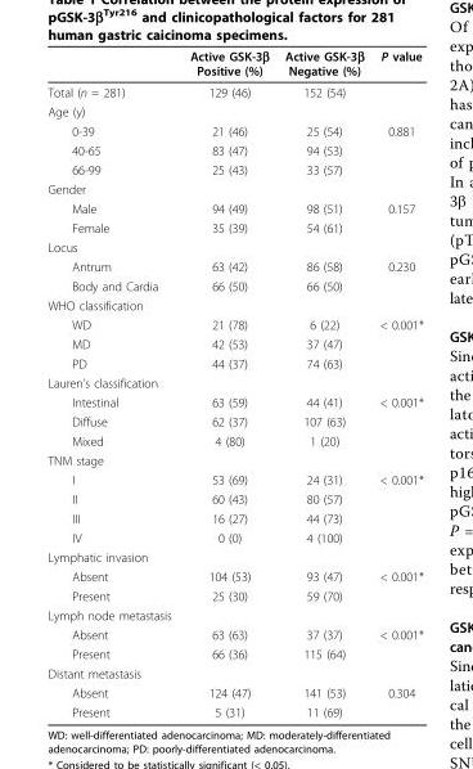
<table><thead><tr><td></td><td>Active GSK-3β Positive (%)</td><td>Active GSK-3β Negative (%)</td><td>P value</td></tr></thead><tbody><tr><td>Total (n = 281)</td><td>129 (46)</td><td>152 (54)</td><td></td></tr><tr><td colspan="4">Age (y)</td></tr><tr><td>0-39</td><td>21 (46)</td><td>25 (54)</td><td>0.881</td></tr><tr><td>40-65</td><td>83 (47)</td><td>94 (53)</td><td></td></tr><tr><td>66-99</td><td>25 (43)</td><td>33 (57)</td><td></td></tr><tr><td colspan="4">Gender</td></tr><tr><td>Male</td><td>94 (49)</td><td>98 (51)</td><td>0.157</td></tr><tr><td>Female</td><td>35 (39)</td><td>54 (61)</td><td></td></tr><tr><td colspan="4">Locus</td></tr><tr><td>Antrum</td><td>63 (42)</td><td>86 (58)</td><td>0.230</td></tr><tr><td>Body and Cardia</td><td>66 (50)</td><td>66 (50)</td><td></td></tr><tr><td colspan="4">WHO classification</td></tr><tr><td>WD</td><td>21 (78)</td><td>6 (22)</td><td>&lt; 0.001*</td></tr><tr><td>MD</td><td>42 (53)</td><td>37 (47)</td><td></td></tr><tr><td>PD</td><td>44 (37)</td><td>74 (63)</td><td></td></tr><tr><td colspan="4">Lauren’s classification</td></tr><tr><td>Intestinal</td><td>63 (59)</td><td>44 (41)</td><td>&lt; 0.001*</td></tr><tr><td>Diffuse</td><td>62 (37)</td><td>107 (63)</td><td></td></tr><tr><td>Mixed</td><td>4 (80)</td><td>1 (20)</td><td></td></tr><tr><td colspan="4">TNM stage</td></tr><tr><td>I</td><td>53 (69)</td><td>24 (31)</td><td>&lt; 0.001*</td></tr><tr><td>II</td><td>60 (43)</td><td>80 (57)</td><td></td></tr><tr><td>III</td><td>16 (27)</td><td>44 (73)</td><td></td></tr><tr><td>IV</td><td>0 (0)</td><td>4 (100)</td><td></td></tr><tr><td colspan="4">Lymphatic invasion</td></tr><tr><td>Absent</td><td>104 (53)</td><td>93 (47)</td><td>&lt; 0.001*</td></tr><tr><td>Present</td><td>25 (30)</td><td>59 (70)</td><td></td></tr><tr><td colspan="4">Lymph node metastasis</td></tr><tr><td>Absent</td><td>63 (63)</td><td>37 (37)</td><td>&lt; 0.001*</td></tr><tr><td>Present</td><td>66 (36)</td><td>115 (64)</td><td></td></tr><tr><td colspan="4">Distant metastasis</td></tr><tr><td>Absent</td><td>124 (47)</td><td>141 (53)</td><td>0.304</td></tr><tr><td>Present</td><td>5 (31)</td><td>11 (69)</td><td></td></tr></tbody></table>